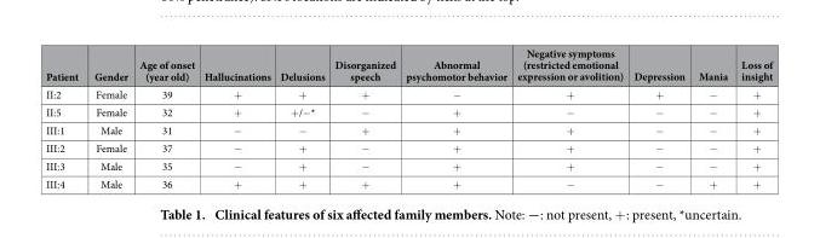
<table><thead><tr><td>Patient</td><td>Gender</td><td>Age of onset (year old)</td><td>Hallucinations</td><td>Delusions</td><td>Disorganized speech</td><td>Abnormal psychomotor behavior</td><td>Negative symptoms (restricted emotional expression or avolition)</td><td>Depression</td><td>Mania</td><td>Loss of insight</td></tr></thead><tbody><tr><td>II:2</td><td>Female</td><td>39</td><td>+</td><td>+</td><td>+</td><td>−</td><td>+</td><td>+</td><td>−</td><td>+</td></tr><tr><td>II:5</td><td>Female</td><td>32</td><td>+</td><td>+/−*</td><td>−</td><td>+</td><td>−</td><td>−</td><td>−</td><td>+</td></tr><tr><td>III:1</td><td>Male</td><td>31</td><td>−</td><td>−</td><td>+</td><td>+</td><td>+</td><td>−</td><td>−</td><td>+</td></tr><tr><td>III:2</td><td>Female</td><td>37</td><td>−</td><td>+</td><td>−</td><td>+</td><td>+</td><td>−</td><td>−</td><td>+</td></tr><tr><td>III:3</td><td>Male</td><td>35</td><td>−</td><td>+</td><td>−</td><td>+</td><td>+</td><td>−</td><td>−</td><td>+</td></tr><tr><td>III:4</td><td>Male</td><td>36</td><td>+</td><td>+</td><td>+</td><td>+</td><td>−</td><td>−</td><td>+</td><td>+</td></tr></tbody></table>